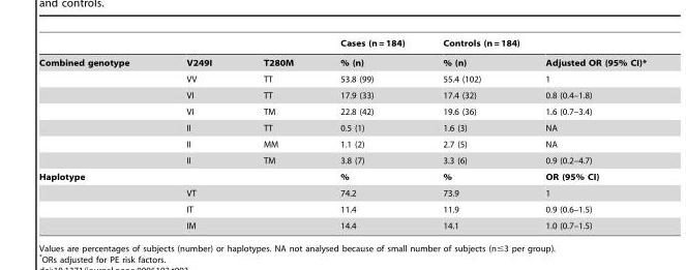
<table><thead><tr><td></td><td></td><td></td><td>Cases (n = 184)</td><td>Controls (n = 184)</td><td></td></tr></thead><tbody><tr><td rowspan="7">Combined genotype</td><td>V249I</td><td>T280M</td><td>% (n)</td><td>% (n)</td><td>Adjusted OR (95% CI)*</td></tr><tr><td>VV</td><td>TT</td><td>53.8 (99)</td><td>55.4 (102)</td><td>1</td></tr><tr><td>VI</td><td>TT</td><td>17.9 (33)</td><td>17.4 (32)</td><td>0.8 (0.4–1.8)</td></tr><tr><td>VI</td><td>TM</td><td>22.8 (42)</td><td>19.6 (36)</td><td>1.6 (0.7–3.4)</td></tr><tr><td>II</td><td>TT</td><td>0.5 (1)</td><td>1.6 (3)</td><td>NA</td></tr><tr><td>II</td><td>MM</td><td>1.1 (2)</td><td>2.7 (5)</td><td>NA</td></tr><tr><td>II</td><td>TM</td><td>3.8 (7)</td><td>3.3 (6)</td><td>0.9 (0.2–4.7)</td></tr><tr><td rowspan="4">Haplotype</td><td></td><td></td><td>%</td><td>%</td><td>OR (95% CI)</td></tr><tr><td colspan="2">VT</td><td>74.2</td><td>73.9</td><td>1</td></tr><tr><td colspan="2">IT</td><td>11.4</td><td>11.9</td><td>0.9 (0.6–1.5)</td></tr><tr><td colspan="2">IM</td><td>14.4</td><td>14.1</td><td>1.0 (0.7–1.5)</td></tr></tbody></table>